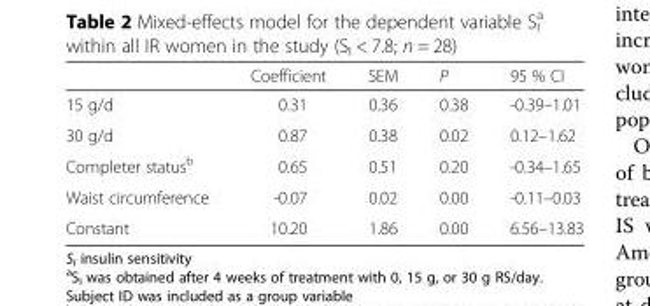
<table><thead><tr><td></td><td>Coefficient</td><td>SEM</td><td>P</td><td>95 % CI</td></tr></thead><tbody><tr><td>15 g/d</td><td>0.31</td><td>0.36</td><td>0.38</td><td>-0.39–1.01</td></tr><tr><td>30 g/d</td><td>0.87</td><td>0.38</td><td>0.02</td><td>0.12–1.62</td></tr><tr><td>Completer status<sup>b</sup></td><td>0.65</td><td>0.51</td><td>0.20</td><td>-0.34–1.65</td></tr><tr><td>Waist circumference</td><td>-0.07</td><td>0.02</td><td>0.00</td><td>-0.11–0.03</td></tr><tr><td>Constant</td><td>10.20</td><td>1.86</td><td>0.00</td><td>6.56–13.83</td></tr></tbody></table>